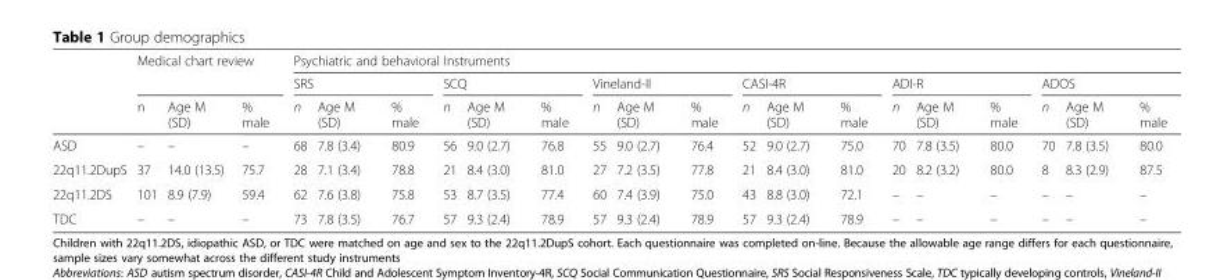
<table><thead><tr><td rowspan="3"></td><td rowspan="2" colspan="3">Medical chart review</td><td colspan="18">Psychiatric and behavioral Instruments</td></tr><tr><td colspan="3">SRS</td><td colspan="3">SCQ</td><td colspan="3">Vineland-II</td><td colspan="3">CASI-4R</td><td colspan="3">ADI-R</td><td colspan="3">ADOS</td></tr><tr><td>n</td><td>Age M (SD)</td><td>% male</td><td>n</td><td>Age M (SD)</td><td>% male</td><td>n</td><td>Age M (SD)</td><td>% male</td><td>n</td><td>Age M (SD)</td><td>% male</td><td>n</td><td>Age M (SD)</td><td>% male</td><td>n</td><td>Age M (SD)</td><td>% male</td><td>n</td><td>Age M (SD)</td><td>% male</td></tr></thead><tbody><tr><td>ASD</td><td>–</td><td>–</td><td>–</td><td>68</td><td>7.8 (3.4)</td><td>80.9</td><td>56</td><td>9.0 (2.7)</td><td>76.8</td><td>55</td><td>9.0 (2.7)</td><td>76.4</td><td>52</td><td>9.0 (2.7)</td><td>75.0</td><td>70</td><td>7.8 (3.5)</td><td>80.0</td><td>70</td><td>7.8 (3.5)</td><td>80.0</td></tr><tr><td>22q11.2DupS</td><td>37</td><td>14.0 (13.5)</td><td>75.7</td><td>28</td><td>7.1 (3.4)</td><td>78.8</td><td>21</td><td>8.4 (3.0)</td><td>81.0</td><td>27</td><td>7.2 (3.5)</td><td>77.8</td><td>21</td><td>8.4 (3.0)</td><td>81.0</td><td>20</td><td>8.2 (3.2)</td><td>80.0</td><td>8</td><td>8.3 (2.9)</td><td>87.5</td></tr><tr><td>22q11.2DS</td><td>101</td><td>8.9 (7.9)</td><td>59.4</td><td>62</td><td>7.6 (3.8)</td><td>75.8</td><td>53</td><td>8.7 (3.5)</td><td>77.4</td><td>60</td><td>7.4 (3.9)</td><td>75.0</td><td>43</td><td>8.8 (3.0)</td><td>72.1</td><td>–</td><td>–</td><td>–</td><td>–</td><td>–</td><td>–</td></tr><tr><td>TDC</td><td>–</td><td>–</td><td>–</td><td>73</td><td>7.8 (3.5)</td><td>76.7</td><td>57</td><td>9.3 (2.4)</td><td>78.9</td><td>57</td><td>9.3 (2.4)</td><td>78.9</td><td>57</td><td>9.3 (2.4)</td><td>78.9</td><td>–</td><td>–</td><td>–</td><td>–</td><td>–</td><td>–</td></tr></tbody></table>